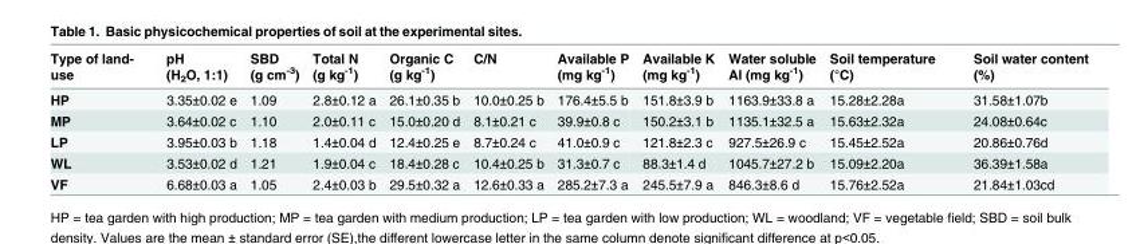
<table><thead><tr><td>Type of land- use</td><td>pH (H<sub>2</sub>O, 1:1)</td><td>SBD (g cm<sup>-3</sup>)</td><td>Total N (g kg<sup>-1</sup>)</td><td>Organic C (g kg<sup>-1</sup>)</td><td>C/N</td><td>Available P (mg kg<sup>-1</sup>)</td><td>Available K (mg kg<sup>-1</sup>)</td><td>Water soluble Al (mg kg<sup>-1</sup>)</td><td>Soil temperature (°C)</td><td>Soil water content (%)</td></tr></thead><tbody><tr><td>HP</td><td>3.35±0.02 e</td><td>1.09</td><td>2.8±0.12 a</td><td>26.1±0.35 b</td><td>10.0±0.25 b</td><td>176.4±5.5 b</td><td>151.8±3.9 b</td><td>1163.9±33.8 a</td><td>15.28±2.28a</td><td>31.58±1.07b</td></tr><tr><td>MP</td><td>3.64±0.02 c</td><td>1.10</td><td>2.0±0.11 c</td><td>15.0±0.20 d</td><td>8.1±0.21 c</td><td>39.9±0.8 c</td><td>150.2±3.1 b</td><td>1135.1±32.5 a</td><td>15.63±2.32a</td><td>24.08±0.64c</td></tr><tr><td>LP</td><td>3.95±0.03 b</td><td>1.18</td><td>1.4±0.04 d</td><td>12.4±0.25 e</td><td>8.7±0.24 c</td><td>41.0±0.9 c</td><td>121.8±2.3 c</td><td>927.5±26.9 c</td><td>15.45±2.52a</td><td>20.86±0.76d</td></tr><tr><td>WL</td><td>3.53±0.02 d</td><td>1.21</td><td>1.9±0.04 c</td><td>18.4±0.28 c</td><td>10.4±0.25 b</td><td>31.3±0.7 c</td><td>88.3±1.4 d</td><td>1045.7±27.2 b</td><td>15.09±2.20a</td><td>36.39±1.58a</td></tr><tr><td>VF</td><td>6.68±0.03 a</td><td>1.05</td><td>2.4±0.03 b</td><td>29.5±0.32 a</td><td>12.6±0.33 a</td><td>285.2±7.3 a</td><td>245.5±7.9 a</td><td>846.3±8.6 d</td><td>15.76±2.52a</td><td>21.84±1.03cd</td></tr></tbody></table>